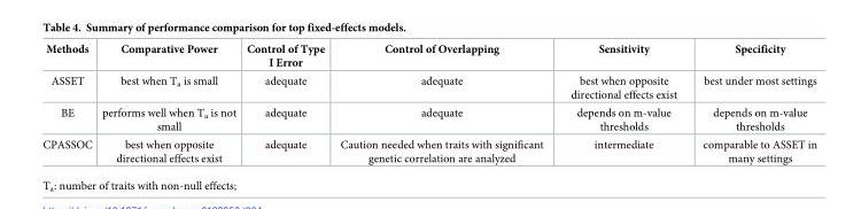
<table><thead><tr><td>Methods</td><td>Comparative Power</td><td>Control of Type I Error</td><td>Control of Overlapping</td><td>Sensitivity</td><td>Specificity</td></tr></thead><tbody><tr><td>ASSET</td><td>best when T<sub>a</sub> is small</td><td>adequate</td><td>adequate</td><td>best when opposite directional effects exist</td><td>best under most settings</td></tr><tr><td>BE</td><td>performs well when T<sub>a</sub> is not small</td><td>adequate</td><td>adequate</td><td>depends on m-value thresholds</td><td>depends on m-value thresholds</td></tr><tr><td>CPASSOC</td><td>best when opposite directional effects exist</td><td>adequate</td><td>Caution needed when traits with significant genetic correlation are analyzed</td><td>intermediate</td><td>comparable to ASSET in many settings</td></tr></tbody></table>